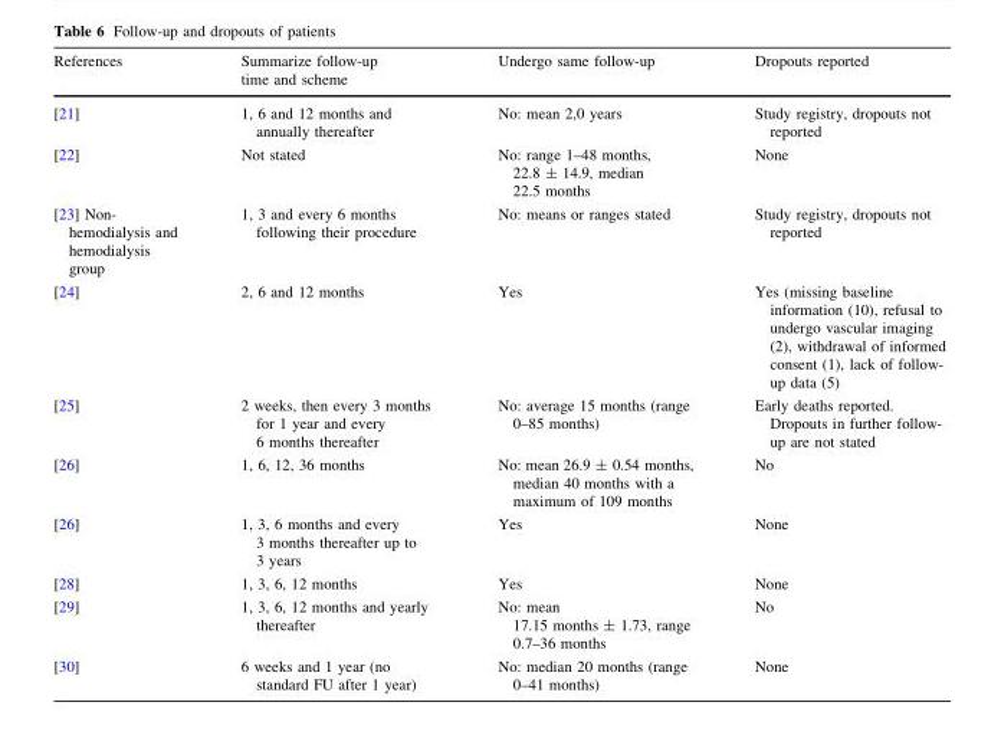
<table><thead><tr><td>References</td><td>Summarize follow-up time and scheme</td><td>Undergo same follow-up</td><td>Dropouts reported</td></tr></thead><tbody><tr><td>[21]</td><td>1, 6 and 12 months and annually thereafter</td><td>No: mean 2,0 years</td><td>Study registry, dropouts not reported</td></tr><tr><td>[22]</td><td>Not stated</td><td>No: range 1–48 months, 22.8 ± 14.9, median 22.5 months</td><td>None</td></tr><tr><td>[23] Non- hemodialysis and hemodialysis group</td><td>1, 3 and every 6 months following their procedure</td><td>No: means or ranges stated</td><td>Study registry, dropouts not reported</td></tr><tr><td>[24]</td><td>2, 6 and 12 months</td><td>Yes</td><td>Yes (missing baseline information (10), refusal to undergo vascular imaging (2), withdrawal of informed consent (1), lack of follow- up data (5)</td></tr><tr><td>[25]</td><td>2 weeks, then every 3 months for 1 year and every 6 months thereafter</td><td>No: average 15 months (range 0–85 months)</td><td>Early deaths reported. Dropouts in further follow- up are not stated</td></tr><tr><td>[26]</td><td>1, 6, 12, 36 months</td><td>No: mean 26.9 ± 0.54 months, median 40 months with a maximum of 109 months</td><td>No</td></tr><tr><td>[26]</td><td>1, 3, 6 months and every 3 months thereafter up to 3 years</td><td>Yes</td><td>None</td></tr><tr><td>[28]</td><td>1, 3, 6, 12 months</td><td>Yes</td><td>None</td></tr><tr><td>[29]</td><td>1, 3, 6, 12 months and yearly thereafter</td><td>No: mean 17.15 months ± 1.73, range 0.7–36 months</td><td>No</td></tr><tr><td>[30]</td><td>6 weeks and 1 year (no standard FU after 1 year)</td><td>No: median 20 months (range 0–41 months)</td><td>None</td></tr></tbody></table>